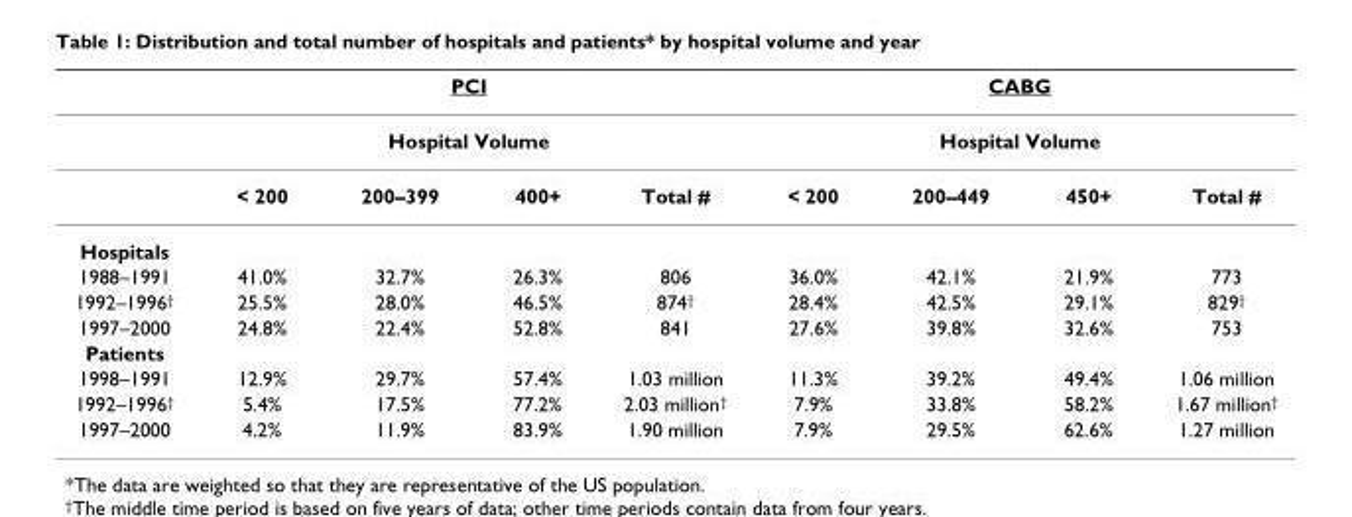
<table><thead><tr><td rowspan="3"></td><td rowspan="2" colspan="4">PCI Hospital Volume</td><td rowspan="2" colspan="4">CABG Hospital Volume</td></tr><tr></tr><tr><td>&lt; 200</td><td>200–399</td><td>400+</td><td>Total #</td><td>&lt; 200</td><td>200–449</td><td>450+</td><td>Total #</td></tr></thead><tbody><tr><td colspan="9">Hospitals</td></tr><tr><td>1988–1991</td><td>41.0%</td><td>32.7%</td><td>26.3%</td><td>806</td><td>36.0%</td><td>42.1%</td><td>21.9%</td><td>773</td></tr><tr><td>1992–1996<sup>†</sup></td><td>25.5%</td><td>28.0%</td><td>46.5%</td><td>874<sup>†</sup></td><td>28.4%</td><td>42.5%</td><td>29.1%</td><td>829<sup>†</sup></td></tr><tr><td>1997–2000</td><td>24.8%</td><td>22.4%</td><td>52.8%</td><td>841</td><td>27.6%</td><td>39.8%</td><td>32.6%</td><td>753</td></tr><tr><td colspan="9">Patients</td></tr><tr><td>1998–1991</td><td>12.9%</td><td>29.7%</td><td>57.4%</td><td>1.03 million</td><td>11.3%</td><td>39.2%</td><td>49.4%</td><td>1.06 million</td></tr><tr><td>1992–1996<sup>†</sup></td><td>5.4%</td><td>17.5%</td><td>77.2%</td><td>2.03 million<sup>†</sup></td><td>7.9%</td><td>33.8%</td><td>58.2%</td><td>1.67 million<sup>†</sup></td></tr><tr><td>1997–2000</td><td>4.2%</td><td>11.9%</td><td>83.9%</td><td>1.90 million</td><td>7.9%</td><td>29.5%</td><td>62.6%</td><td>1.27 million</td></tr></tbody></table>